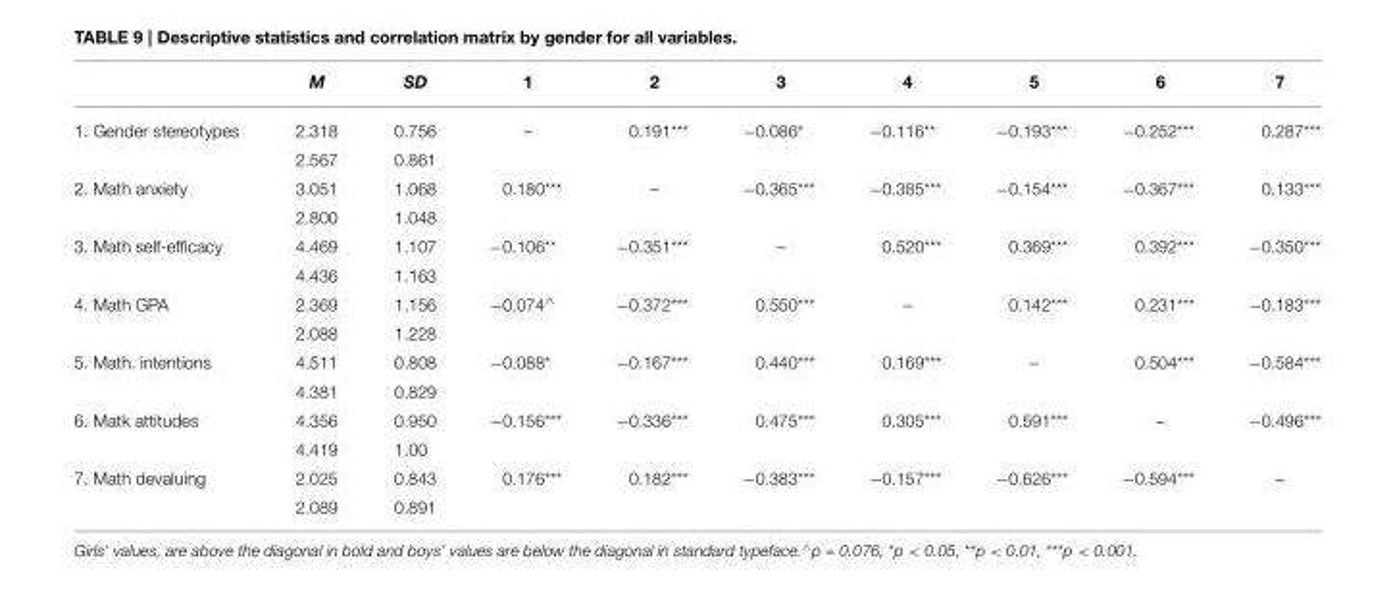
<table><thead><tr><td></td><td>M</td><td>SD</td><td>1</td><td>2</td><td>3</td><td>4</td><td>5</td><td>6</td><td>7</td></tr></thead><tbody><tr><td rowspan="2">1. Gender stereotypes</td><td>2.318</td><td>0.756</td><td>–</td><td>0.191***</td><td>−0.086*</td><td>−0.116**</td><td>−0.193***</td><td>−0.252***</td><td>0.287***</td></tr><tr><td>2.567</td><td>0.861</td><td></td><td></td><td></td><td></td><td></td><td></td><td></td></tr><tr><td rowspan="2">2. Math anxiety</td><td>3.051</td><td>1.068</td><td>0.180***</td><td>–</td><td>−0.365***</td><td>−0.385***</td><td>−0.154***</td><td>−0.367***</td><td>0.133***</td></tr><tr><td>2.800</td><td>1.048</td><td></td><td></td><td></td><td></td><td></td><td></td><td></td></tr><tr><td rowspan="2">3. Math self-efficacy</td><td>4.469</td><td>1.107</td><td>−0.106**</td><td>−0.351***</td><td>–</td><td>0.520***</td><td>0.369***</td><td>0.392***</td><td>−0.350***</td></tr><tr><td>4.436</td><td>1.163</td><td></td><td></td><td></td><td></td><td></td><td></td><td></td></tr><tr><td rowspan="2">4. Math GPA</td><td>2.369</td><td>1.156</td><td>−0.074<sup>∧</sup></td><td>−0.372***</td><td>0.550***</td><td>–</td><td>0.142***</td><td>0.231***</td><td>−0.183***</td></tr><tr><td>2.088</td><td>1.228</td><td></td><td></td><td></td><td></td><td></td><td></td><td></td></tr><tr><td rowspan="2">5. Math. intentions</td><td>4.511</td><td>0.808</td><td>−0.088*</td><td>−0.167***</td><td>0.440***</td><td>0.169***</td><td>–</td><td>0.504***</td><td>−0.584***</td></tr><tr><td>4.381</td><td>0.829</td><td></td><td></td><td></td><td></td><td></td><td></td><td></td></tr><tr><td rowspan="2">6. Matk attitudes</td><td>4.356</td><td>0.950</td><td>−0.156***</td><td>−0.336***</td><td>0.475***</td><td>0.305***</td><td>0.591***</td><td>–</td><td>−0.496***</td></tr><tr><td>4.419</td><td>1.00</td><td></td><td></td><td></td><td></td><td></td><td></td><td></td></tr><tr><td rowspan="2">7. Math devaluing</td><td>2.025</td><td>0.843</td><td>0.176***</td><td>0.182***</td><td>−0.383***</td><td>−0.157***</td><td>−0.626***</td><td>−0.594***</td><td>–</td></tr><tr><td>2.089</td><td>0.891</td><td></td><td></td><td></td><td></td><td></td><td></td><td></td></tr></tbody></table>